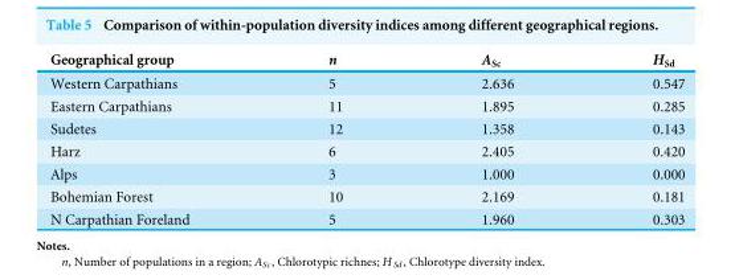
<table><thead><tr><td>Geographical group</td><td>n</td><td>A<sub>Sc</sub></td><td>H<sub>Sd</sub></td></tr></thead><tbody><tr><td>Western Carpathians</td><td>5</td><td>2.636</td><td>0.547</td></tr><tr><td>Eastern Carpathians</td><td>11</td><td>1.895</td><td>0.285</td></tr><tr><td>Sudetes</td><td>12</td><td>1.358</td><td>0.143</td></tr><tr><td>Harz</td><td>6</td><td>2.405</td><td>0.420</td></tr><tr><td>Alps</td><td>3</td><td>1.000</td><td>0.000</td></tr><tr><td>Bohemian Forest</td><td>10</td><td>2.169</td><td>0.181</td></tr><tr><td>N Carpathian Foreland</td><td>5</td><td>1.960</td><td>0.303</td></tr></tbody></table>